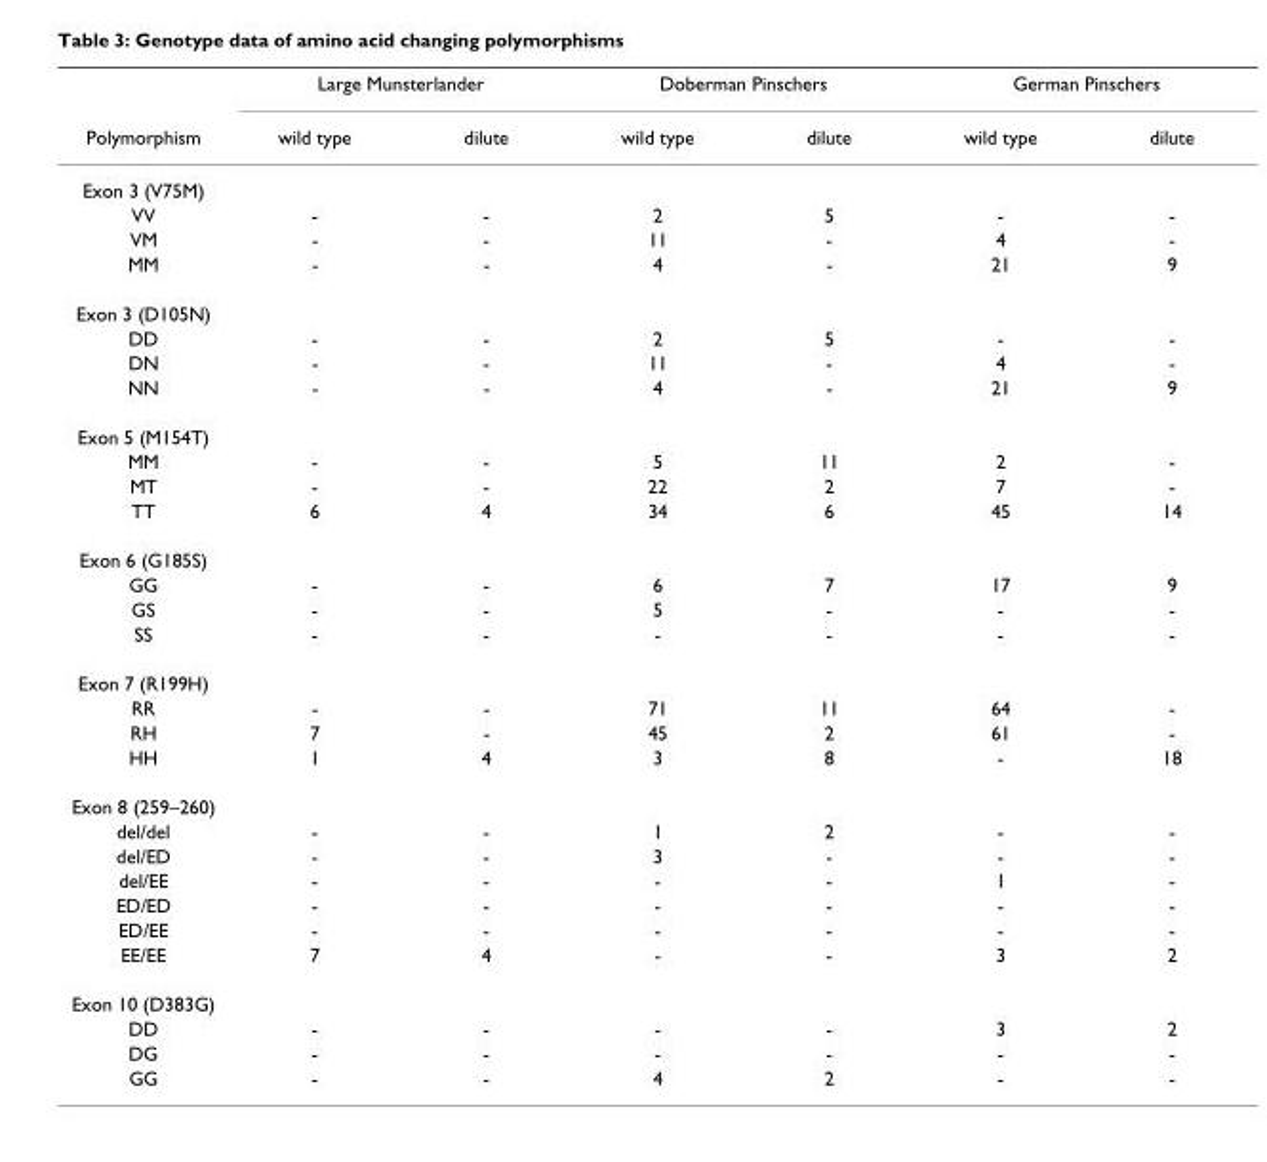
<table><thead><tr><td rowspan="2">Polymorphism</td><td colspan="2">Large Munsterlander</td><td colspan="2">Doberman Pinschers</td><td colspan="2">German Pinschers</td></tr><tr><td>wild type</td><td>dilute</td><td>wild type</td><td>dilute</td><td>wild type</td><td>dilute</td></tr></thead><tbody><tr><td colspan="7">Exon 3 (V75M)</td></tr><tr><td>VV</td><td>-</td><td>-</td><td>2</td><td>5</td><td>-</td><td>-</td></tr><tr><td>VM</td><td>-</td><td>-</td><td>11</td><td>-</td><td>4</td><td>-</td></tr><tr><td>MM</td><td>-</td><td>-</td><td>4</td><td>-</td><td>21</td><td>9</td></tr><tr><td colspan="7">Exon 3 (D105N)</td></tr><tr><td>DD</td><td>-</td><td>-</td><td>2</td><td>5</td><td>-</td><td>-</td></tr><tr><td>DN</td><td>-</td><td>-</td><td>11</td><td>-</td><td>4</td><td>-</td></tr><tr><td>NN</td><td>-</td><td>-</td><td>4</td><td>-</td><td>21</td><td>9</td></tr><tr><td colspan="7">Exon 5 (M154T)</td></tr><tr><td>MM</td><td>-</td><td>-</td><td>5</td><td>11</td><td>2</td><td>-</td></tr><tr><td>MT</td><td>-</td><td>-</td><td>22</td><td>2</td><td>7</td><td>-</td></tr><tr><td>TT</td><td>6</td><td>4</td><td>34</td><td>6</td><td>45</td><td>14</td></tr><tr><td colspan="7">Exon 6 (G185S)</td></tr><tr><td>GG</td><td>-</td><td>-</td><td>6</td><td>7</td><td>17</td><td>9</td></tr><tr><td>GS</td><td>-</td><td>-</td><td>5</td><td>-</td><td>-</td><td>-</td></tr><tr><td>SS</td><td>-</td><td>-</td><td>-</td><td>-</td><td>-</td><td>-</td></tr><tr><td colspan="7">Exon 7 (R199H)</td></tr><tr><td>RR</td><td>-</td><td>-</td><td>71</td><td>11</td><td>64</td><td>-</td></tr><tr><td>RH</td><td>7</td><td>-</td><td>45</td><td>2</td><td>61</td><td>-</td></tr><tr><td>HH</td><td>1</td><td>4</td><td>3</td><td>8</td><td>-</td><td>18</td></tr><tr><td colspan="7">Exon 8 (259–260)</td></tr><tr><td>del/del</td><td>-</td><td>-</td><td>1</td><td>2</td><td>-</td><td>-</td></tr><tr><td>del/ED</td><td>-</td><td>-</td><td>3</td><td>-</td><td>-</td><td>-</td></tr><tr><td>del/EE</td><td>-</td><td>-</td><td>-</td><td>-</td><td>1</td><td>-</td></tr><tr><td>ED/ED</td><td>-</td><td>-</td><td>-</td><td>-</td><td>-</td><td>-</td></tr><tr><td>ED/EE</td><td>-</td><td>-</td><td>-</td><td>-</td><td>-</td><td>-</td></tr><tr><td>EE/EE</td><td>7</td><td>4</td><td>-</td><td>-</td><td>3</td><td>2</td></tr><tr><td colspan="7">Exon 10 (D383G)</td></tr><tr><td>DD</td><td>-</td><td>-</td><td>-</td><td>-</td><td>3</td><td>2</td></tr><tr><td>DG</td><td>-</td><td>-</td><td>-</td><td>-</td><td>-</td><td>-</td></tr><tr><td>GG</td><td>-</td><td>-</td><td>4</td><td>2</td><td>-</td><td>-</td></tr></tbody></table>